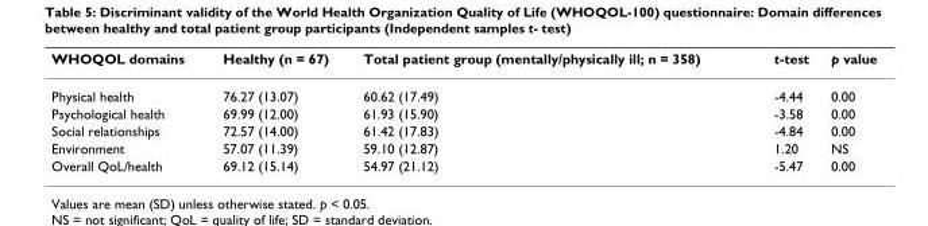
<table><thead><tr><td>WHOQOL domains</td><td>Healthy (n = 67)</td><td>Total patient group (mentally/physically ill; n = 358)</td><td>t-test</td><td>p value</td></tr></thead><tbody><tr><td>Physical health</td><td>76.27 (13.07)</td><td>60.62 (17.49)</td><td>-4.44</td><td>0.00</td></tr><tr><td>Psychological health</td><td>69.99 (12.00)</td><td>61.93 (15.90)</td><td>-3.58</td><td>0.00</td></tr><tr><td>Social relationships</td><td>72.57 (14.00)</td><td>61.42 (17.83)</td><td>-4.84</td><td>0.00</td></tr><tr><td>Environment</td><td>57.07 (11.39)</td><td>59.10 (12.87)</td><td>1.20</td><td>NS</td></tr><tr><td>Overall QoL/health</td><td>69.12 (15.14)</td><td>54.97 (21.12)</td><td>-5.47</td><td>0.00</td></tr></tbody></table>